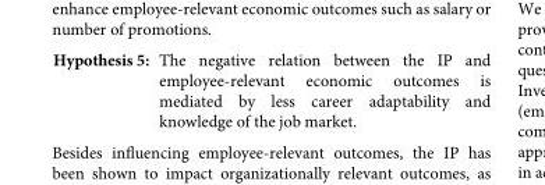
<table><tbody><tr><td>Hypothesis 5:</td><td>The negative relation between the IP and employee-relevant economic outcomes is mediated by less career adaptability and knowledge of the job market.</td></tr></tbody></table>